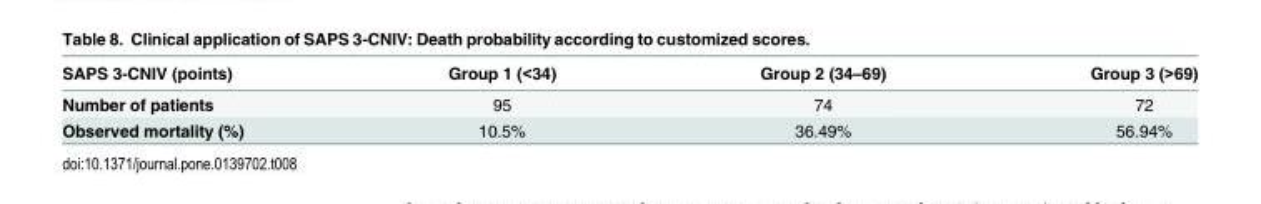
<table><thead><tr><td>SAPS 3-CNIV (points)</td><td>Group 1 (&lt;34)</td><td>Group 2 (34–69)</td><td>Group 3 (&gt;69)</td></tr></thead><tbody><tr><td>Number of patients</td><td>95</td><td>74</td><td>72</td></tr><tr><td>Observed mortality (%)</td><td>10.5%</td><td>36.49%</td><td>56.94%</td></tr></tbody></table>